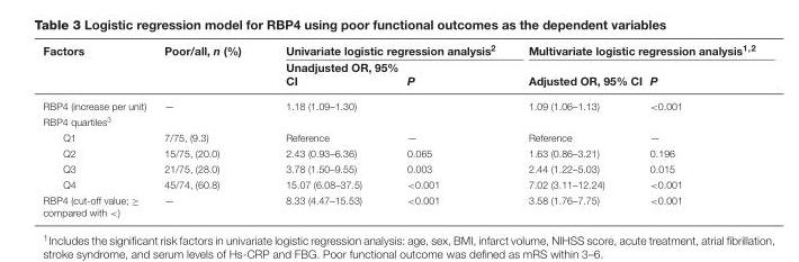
<table><thead><tr><td rowspan="2">Factors</td><td rowspan="2">Poor/all, n (%)</td><td colspan="2">Univariate logistic regression analysis<sup>2</sup></td><td colspan="2">Multivariate logistic regression analysis<sup>1</sup>,<sup>2</sup></td></tr><tr><td>Unadjusted OR, 95% CI</td><td>P</td><td>Adjusted OR, 95% CI</td><td>P</td></tr></thead><tbody><tr><td>RBP4 (increase per unit)</td><td>—</td><td>1.18 (1.09–1.30)</td><td></td><td>1.09 (1.06–1.13)</td><td>&lt;0.001</td></tr><tr><td colspan="6">RBP4 quartiles<sup>3</sup></td></tr><tr><td>Q1</td><td>7/75, (9.3)</td><td>Reference</td><td>—</td><td>Reference</td><td>—</td></tr><tr><td>Q2</td><td>15/75, (20.0)</td><td>2.43 (0.93–6.36)</td><td>0.065</td><td>1.63 (0.86–3.21)</td><td>0.196</td></tr><tr><td>Q3</td><td>21/75, (28.0)</td><td>3.78 (1.50–9.55)</td><td>0.003</td><td>2.44 (1.22–5.03)</td><td>0.015</td></tr><tr><td>Q4</td><td>45/74, (60.8)</td><td>15.07 (6.08–37.5)</td><td>&lt;0.001</td><td>7.02 (3.11–12.24)</td><td>&lt;0.001</td></tr><tr><td>RBP4 (cut-off value; ≥ compared with &lt;)</td><td>—</td><td>8.33 (4.47–15.53)</td><td>&lt;0.001</td><td>3.58 (1.76–7.75)</td><td>&lt;0.001</td></tr></tbody></table>